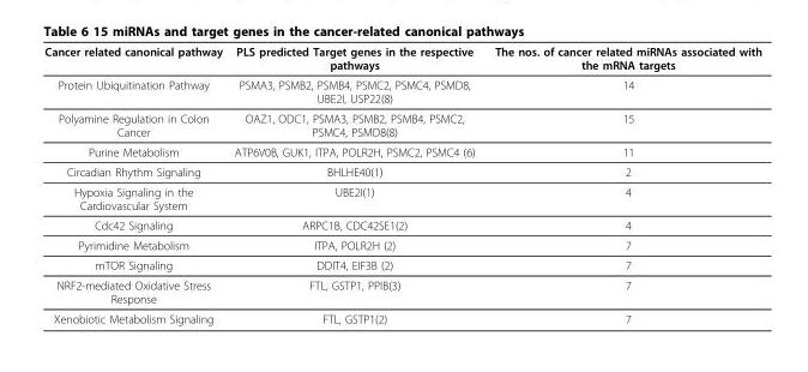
<table><thead><tr><td>Cancer related canonical pathway</td><td>PLS predicted Target genes in the respective pathways</td><td>The nos. of cancer related miRNAs associated with the mRNA targets</td></tr></thead><tbody><tr><td>Protein Ubiquitination Pathway</td><td>PSMA3, PSMB2, PSMB4, PSMC2, PSMC4, PSMD8, UBE2I, USP22(8)</td><td>14</td></tr><tr><td>Polyamine Regulation in Colon Cancer</td><td>OAZ1, ODC1, PSMA3, PSMB2, PSMB4, PSMC2, PSMC4, PSMD8(8)</td><td>15</td></tr><tr><td>Purine Metabolism</td><td>ATP6V0B, GUK1, ITPA, POLR2H, PSMC2, PSMC4 (6)</td><td>11</td></tr><tr><td>Circadian Rhythm Signaling</td><td>BHLHE40(1)</td><td>2</td></tr><tr><td>Hypoxia Signaling in the Cardiovascular System</td><td>UBE2I(1)</td><td>4</td></tr><tr><td>Cdc42 Signaling</td><td>ARPC1B, CDC42SE1(2)</td><td>4</td></tr><tr><td>Pyrimidine Metabolism</td><td>ITPA, POLR2H (2)</td><td>7</td></tr><tr><td>mTOR Signaling</td><td>DDIT4, EIF3B (2)</td><td>7</td></tr><tr><td>NRF2-mediated Oxidative Stress Response</td><td>FTL, GSTP1, PPIB(3)</td><td>7</td></tr><tr><td>Xenobiotic Metabolism Signaling</td><td>FTL, GSTP1(2)</td><td>7</td></tr></tbody></table>